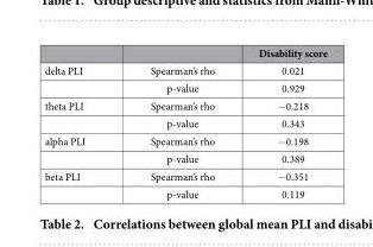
<table><thead><tr><td></td><td></td><td>Disability score</td></tr></thead><tbody><tr><td rowspan="2">delta PLI</td><td>Spearman’s rho</td><td>0.021</td></tr><tr><td>p-value</td><td>0.929</td></tr><tr><td rowspan="2">theta PLI</td><td>Spearman’s rho</td><td>− 0.218</td></tr><tr><td>p-value</td><td>0.343</td></tr><tr><td rowspan="2">alpha PLI</td><td>Spearman’s rho</td><td>− 0.198</td></tr><tr><td>p-value</td><td>0.389</td></tr><tr><td rowspan="2">beta PLI</td><td>Spearman’s rho</td><td>− 0.351</td></tr><tr><td>p-value</td><td>0.119</td></tr></tbody></table>